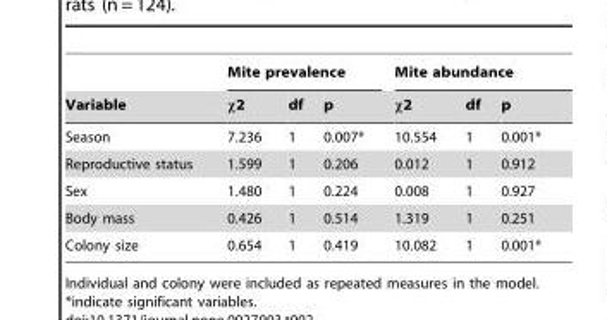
<table><thead><tr><td rowspan="2">Variable</td><td colspan="3">Mite prevalence</td><td colspan="3">Mite abundance</td></tr><tr><td>χ2</td><td>df</td><td>p</td><td>χ2</td><td>df</td><td>p</td></tr></thead><tbody><tr><td>Season</td><td>7.236</td><td>1</td><td>0.007*</td><td>10.554</td><td>1</td><td>0.001*</td></tr><tr><td>Reproductive status</td><td>1.599</td><td>1</td><td>0.206</td><td>0.012</td><td>1</td><td>0.912</td></tr><tr><td>Sex</td><td>1.480</td><td>1</td><td>0.224</td><td>0.008</td><td>1</td><td>0.927</td></tr><tr><td>Body mass</td><td>0.426</td><td>1</td><td>0.514</td><td>1.319</td><td>1</td><td>0.251</td></tr><tr><td>Colony size</td><td>0.654</td><td>1</td><td>0.419</td><td>10.082</td><td>1</td><td>0.001*</td></tr></tbody></table>